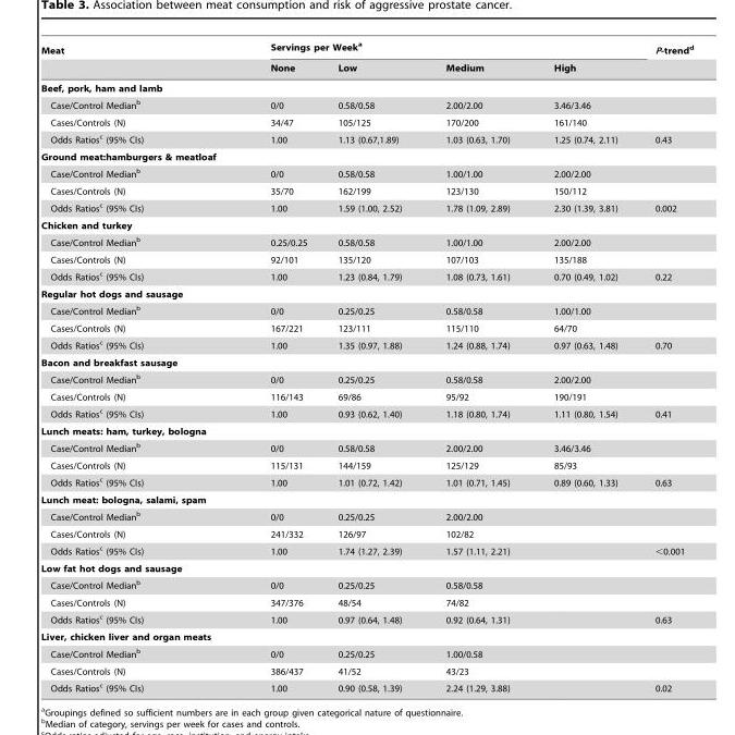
<table><thead><tr><td rowspan="2">Meat</td><td colspan="4">Servings per Week<sup>a</sup></td><td rowspan="2">P-trend<sup>d</sup></td></tr><tr><td>None</td><td>Low</td><td>Medium</td><td>High</td></tr></thead><tbody><tr><td colspan="6">Beef, pork, ham and lamb</td></tr><tr><td>Case/Control Median<sup>b</sup></td><td>0/0</td><td>0.58/0.58</td><td>2.00/2.00</td><td>3.46/3.46</td><td></td></tr><tr><td>Cases/Controls (N)</td><td>34/47</td><td>105/125</td><td>170/200</td><td>161/140</td><td></td></tr><tr><td>Odds Ratios<sup>c</sup> (95% CIs)</td><td>1.00</td><td>1.13 (0.67,1.89)</td><td>1.03 (0.63, 1.70)</td><td>1.25 (0.74, 2.11)</td><td>0.43</td></tr><tr><td colspan="6">Ground meat:hamburgers &amp; meatloaf</td></tr><tr><td>Case/Control Median<sup>b</sup></td><td>0/0</td><td>0.58/0.58</td><td>1.00/1.00</td><td>2.00/2.00</td><td></td></tr><tr><td>Cases/Controls (N)</td><td>35/70</td><td>162/199</td><td>123/130</td><td>150/112</td><td></td></tr><tr><td>Odds Ratios<sup>c</sup> (95% CIs)</td><td>1.00</td><td>1.59 (1.00, 2.52)</td><td>1.78 (1.09, 2.89)</td><td>2.30 (1.39, 3.81)</td><td>0.002</td></tr><tr><td colspan="6">Chicken and turkey</td></tr><tr><td>Case/Control Median<sup>b</sup></td><td>0.25/0.25</td><td>0.58/0.58</td><td>1.00/1.00</td><td>2.00/2.00</td><td></td></tr><tr><td>Cases/Controls (N)</td><td>92/101</td><td>135/120</td><td>107/103</td><td>135/188</td><td></td></tr><tr><td>Odds Ratios<sup>c</sup> (95% CIs)</td><td>1.00</td><td>1.23 (0.84, 1.79)</td><td>1.08 (0.73, 1.61)</td><td>0.70 (0.49, 1.02)</td><td>0.22</td></tr><tr><td colspan="6">Regular hot dogs and sausage</td></tr><tr><td>Case/Control Median<sup>b</sup></td><td>0/0</td><td>0.25/0.25</td><td>0.58/0.58</td><td>1.00/1.00</td><td></td></tr><tr><td>Cases/Controls (N)</td><td>167/221</td><td>123/111</td><td>115/110</td><td>64/70</td><td></td></tr><tr><td>Odds Ratios<sup>c</sup> (95% CIs)</td><td>1.00</td><td>1.35 (0.97, 1.88)</td><td>1.24 (0.88, 1.74)</td><td>0.97 (0.63, 1.48)</td><td>0.70</td></tr><tr><td colspan="6">Bacon and breakfast sausage</td></tr><tr><td>Case/Control Median<sup>b</sup></td><td>0/0</td><td>0.25/0.25</td><td>0.58/0.58</td><td>2.00/2.00</td><td></td></tr><tr><td>Cases/Controls (N)</td><td>116/143</td><td>69/86</td><td>95/92</td><td>190/191</td><td></td></tr><tr><td>Odds Ratios<sup>c</sup> (95% CIs)</td><td>1.00</td><td>0.93 (0.62, 1.40)</td><td>1.18 (0.80, 1.74)</td><td>1.11 (0.80, 1.54)</td><td>0.41</td></tr><tr><td colspan="6">Lunch meats: ham, turkey, bologna</td></tr><tr><td>Case/Control Median<sup>b</sup></td><td>0/0</td><td>0.58/0.58</td><td>2.00/2.00</td><td>3.46/3.46</td><td></td></tr><tr><td>Cases/Controls (N)</td><td>115/131</td><td>144/159</td><td>125/129</td><td>85/93</td><td></td></tr><tr><td>Odds Ratios<sup>c</sup> (95% CIs)</td><td>1.00</td><td>1.01 (0.72, 1.42)</td><td>1.01 (0.71, 1.45)</td><td>0.89 (0.60, 1.33)</td><td>0.63</td></tr><tr><td colspan="6">Lunch meat: bologna, salami, spam</td></tr><tr><td>Case/Control Median<sup>b</sup></td><td>0/0</td><td>0.25/0.25</td><td>2.00/2.00</td><td></td><td></td></tr><tr><td>Cases/Controls (N)</td><td>241/332</td><td>126/97</td><td>102/82</td><td></td><td></td></tr><tr><td>Odds Ratios<sup>c</sup> (95% CIs)</td><td>1.00</td><td>1.74 (1.27, 2.39)</td><td>1.57 (1.11, 2.21)</td><td></td><td>&lt;0.001</td></tr><tr><td colspan="6">Low fat hot dogs and sausage</td></tr><tr><td>Case/Control Median<sup>b</sup></td><td>0/0</td><td>0.25/0.25</td><td>0.58/0.58</td><td></td><td></td></tr><tr><td>Cases/Controls (N)</td><td>347/376</td><td>48/54</td><td>74/82</td><td></td><td></td></tr><tr><td>Odds Ratios<sup>c</sup> (95% CIs)</td><td>1.00</td><td>0.97 (0.64, 1.48)</td><td>0.92 (0.64, 1.31)</td><td></td><td>0.63</td></tr><tr><td colspan="6">Liver, chicken liver and organ meats</td></tr><tr><td>Case/Control Median<sup>b</sup></td><td>0/0</td><td>0.25/0.25</td><td>1.00/0.58</td><td></td><td></td></tr><tr><td>Cases/Controls (N)</td><td>386/437</td><td>41/52</td><td>43/23</td><td></td><td></td></tr><tr><td>Odds Ratios<sup>c</sup> (95% CIs)</td><td>1.00</td><td>0.90 (0.58, 1.39)</td><td>2.24 (1.29, 3.88)</td><td></td><td>0.02</td></tr></tbody></table>